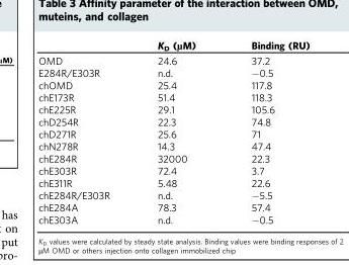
<table><thead><tr><td></td><td>K<sub>D</sub> (µM)</td><td>Binding (RU)</td></tr></thead><tbody><tr><td>OMD</td><td>24.6</td><td>37.2</td></tr><tr><td>E284R/E303R</td><td>n.d.</td><td>−0.5</td></tr><tr><td>chOMD</td><td>25.4</td><td>117.8</td></tr><tr><td>chE173R</td><td>51.4</td><td>118.3</td></tr><tr><td>chE225R</td><td>29.1</td><td>105.6</td></tr><tr><td>chD254R</td><td>22.3</td><td>74.8</td></tr><tr><td>chD271R</td><td>25.6</td><td>71</td></tr><tr><td>chN278R</td><td>14.3</td><td>47.4</td></tr><tr><td>chE284R</td><td>32000</td><td>22.3</td></tr><tr><td>chE303R</td><td>72.4</td><td>3.7</td></tr><tr><td>chE311R</td><td>5.48</td><td>22.6</td></tr><tr><td>chE284R/E303R</td><td>n.d.</td><td>−5.5</td></tr><tr><td>chE284A</td><td>78.3</td><td>57.4</td></tr><tr><td>chE303A</td><td>n.d.</td><td>−0.5</td></tr></tbody></table>